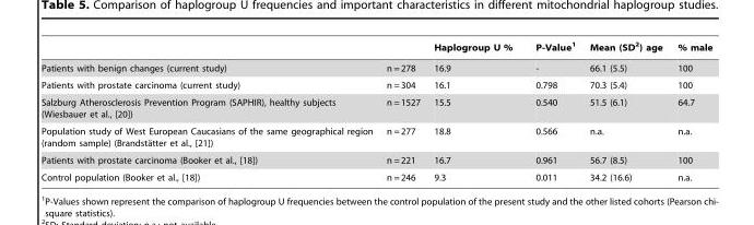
<table><thead><tr><td></td><td></td><td>Haplogroup U %</td><td>P-Value<sup>1</sup></td><td>Mean (SD<sup>2</sup>) age</td><td>% male</td></tr></thead><tbody><tr><td>Patients with benign changes (current study)</td><td>n = 278</td><td>16.9</td><td>-</td><td>66.1 (5.5)</td><td>100</td></tr><tr><td>Patients with prostate carcinoma (current study)</td><td>n = 304</td><td>16.1</td><td>0.798</td><td>70.3 (5.4)</td><td>100</td></tr><tr><td>Salzburg Atherosclerosis Prevention Program (SAPHIR), healthy subjects (Wiesbauer et al., [20])</td><td>n = 1527</td><td>15.5</td><td>0.540</td><td>51.5 (6.1)</td><td>64.7</td></tr><tr><td>Population study of West European Caucasians of the same geographical region (random sample) (Brandsta¨tter et al., [21])</td><td>n = 277</td><td>18.8</td><td>0.566</td><td>n.a.</td><td>n.a.</td></tr><tr><td>Patients with prostate carcinoma (Booker et al., [18])</td><td>n = 221</td><td>16.7</td><td>0.961</td><td>56.7 (8.5)</td><td>100</td></tr><tr><td>Control population (Booker et al., [18])</td><td>n = 246</td><td>9.3</td><td>0.011</td><td>34.2 (16.6)</td><td>n.a.</td></tr></tbody></table>